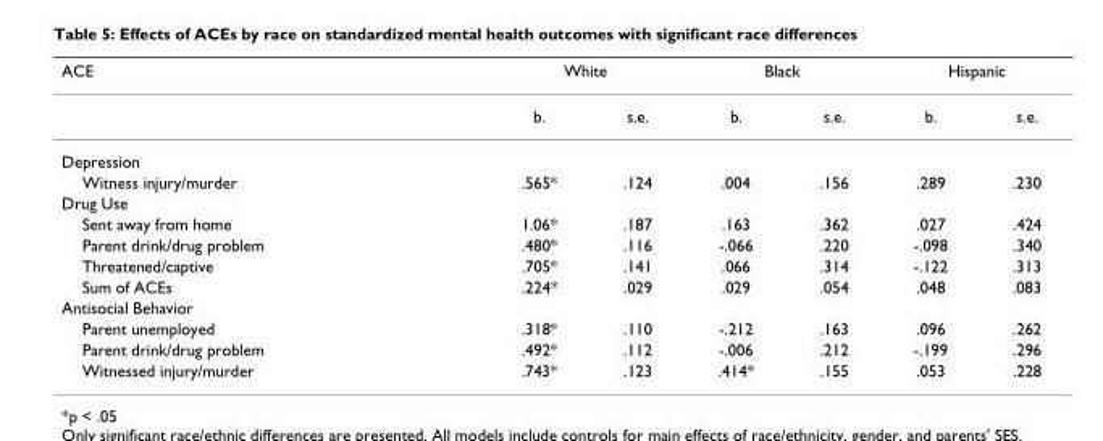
<table><thead><tr><td rowspan="2">ACE</td><td colspan="2">White</td><td colspan="2">Black</td><td colspan="2">Hispanic</td></tr><tr><td>b.</td><td>s.e.</td><td>b.</td><td>s.e.</td><td>b.</td><td>s.e.</td></tr></thead><tbody><tr><td colspan="7">Depression</td></tr><tr><td>Witness injury/murder</td><td>.565*</td><td>.124</td><td>.004</td><td>.156</td><td>.289</td><td>.230</td></tr><tr><td colspan="7">Drug Use</td></tr><tr><td>Sent away from home</td><td>1.06*</td><td>.187</td><td>.163</td><td>.362</td><td>.027</td><td>.424</td></tr><tr><td>Parent drink/drug problem</td><td>.480*</td><td>.116</td><td>-.066</td><td>.220</td><td>-.098</td><td>.340</td></tr><tr><td>Threatened/captive</td><td>.705*</td><td>.141</td><td>.066</td><td>.314</td><td>-.122</td><td>.313</td></tr><tr><td>Sum of ACEs</td><td>.224*</td><td>.029</td><td>.029</td><td>.054</td><td>.048</td><td>.083</td></tr><tr><td colspan="7">Antisocial Behavior</td></tr><tr><td>Parent unemployed</td><td>.318*</td><td>.110</td><td>-.212</td><td>.163</td><td>.096</td><td>.262</td></tr><tr><td>Parent drink/drug problem</td><td>.492*</td><td>.112</td><td>-.006</td><td>.212</td><td>-.199</td><td>.296</td></tr><tr><td>Witnessed injury/murder</td><td>.743*</td><td>.123</td><td>.414*</td><td>.155</td><td>.053</td><td>.228</td></tr></tbody></table>